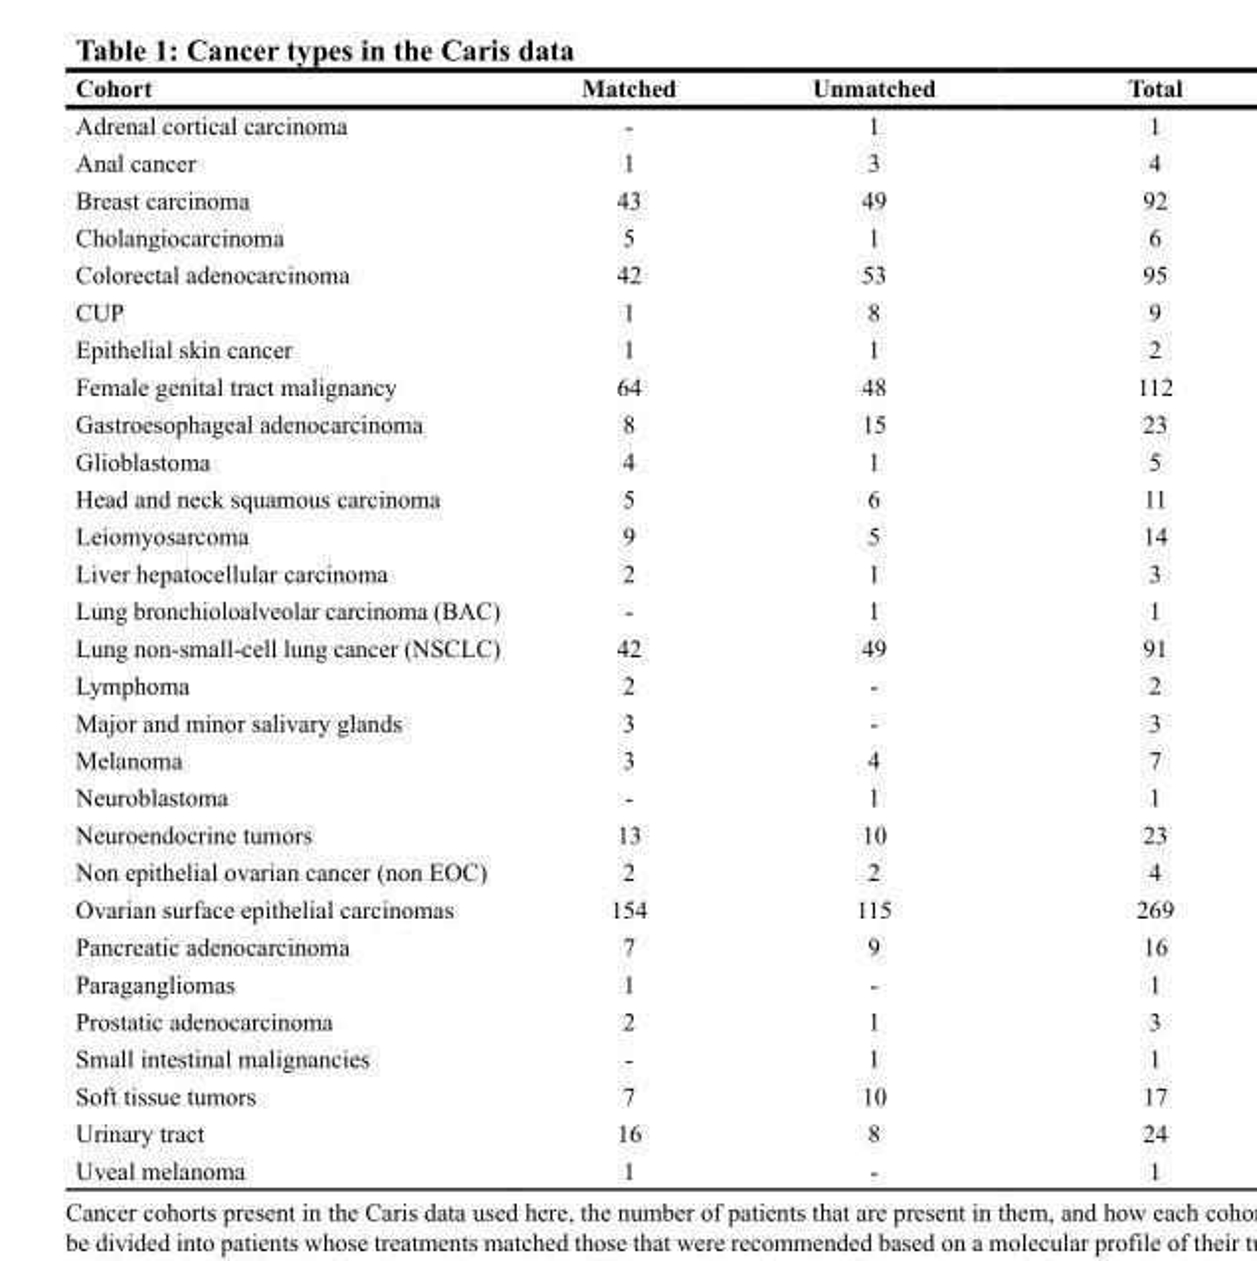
<table><thead><tr><td>Cohort</td><td>Matched</td><td>Unmatched</td><td>Total</td></tr></thead><tbody><tr><td>Adrenal cortical carcinoma</td><td>-</td><td>1</td><td>1</td></tr><tr><td>Anal cancer</td><td>1</td><td>3</td><td>4</td></tr><tr><td>Breast carcinoma</td><td>43</td><td>49</td><td>92</td></tr><tr><td>Cholangiocarcinoma</td><td>5</td><td>1</td><td>6</td></tr><tr><td>Colorectal adenocarcinoma</td><td>42</td><td>53</td><td>95</td></tr><tr><td>CUP</td><td>1</td><td>8</td><td>9</td></tr><tr><td>Epithelial skin cancer</td><td>1</td><td>1</td><td>2</td></tr><tr><td>Female genital tract malignancy</td><td>64</td><td>48</td><td>112</td></tr><tr><td>Gastroesophageal adenocarcinoma</td><td>8</td><td>15</td><td>23</td></tr><tr><td>Glioblastoma</td><td>4</td><td>1</td><td>5</td></tr><tr><td>Head and neck squamous carcinoma</td><td>5</td><td>6</td><td>11</td></tr><tr><td>Leiomyosarcoma</td><td>9</td><td>5</td><td>14</td></tr><tr><td>Liver hepatocellular carcinoma</td><td>2</td><td>1</td><td>3</td></tr><tr><td>Lung bronchioloalveolar carcinoma (BAC)</td><td>-</td><td>1</td><td>1</td></tr><tr><td>Lung non-small-cell lung cancer (NSCLC)</td><td>42</td><td>49</td><td>91</td></tr><tr><td>Lymphoma</td><td>2</td><td>-</td><td>2</td></tr><tr><td>Major and minor salivary glands</td><td>3</td><td>-</td><td>3</td></tr><tr><td>Melanoma</td><td>3</td><td>4</td><td>7</td></tr><tr><td>Neuroblastoma</td><td>-</td><td>1</td><td>1</td></tr><tr><td>Neuroendocrine tumors</td><td>13</td><td>10</td><td>23</td></tr><tr><td>Non epithelial ovarian cancer (non EOC)</td><td>2</td><td>2</td><td>4</td></tr><tr><td>Ovarian surface epithelial carcinomas</td><td>154</td><td>115</td><td>269</td></tr><tr><td>Pancreatic adenocarcinoma</td><td>7</td><td>9</td><td>16</td></tr><tr><td>Paragangliomas</td><td>1</td><td>-</td><td>1</td></tr><tr><td>Prostatic adenocarcinoma</td><td>2</td><td>1</td><td>3</td></tr><tr><td>Small intestinal malignancies</td><td>-</td><td>1</td><td>1</td></tr><tr><td>Soft tissue tumors</td><td>7</td><td>10</td><td>17</td></tr><tr><td>Urinary tract</td><td>16</td><td>8</td><td>24</td></tr><tr><td>Uveal melanoma</td><td>1</td><td>-</td><td>1</td></tr></tbody></table>